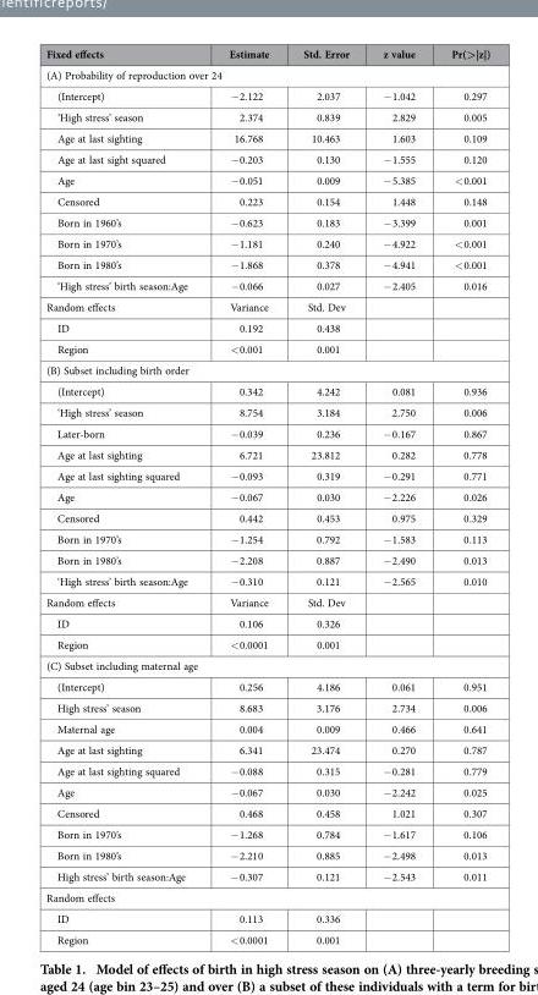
<table><thead><tr><td>Fixed effects</td><td>Estimate</td><td>Std. Error</td><td>z value</td><td>Pr(&gt;|z|)</td></tr></thead><tbody><tr><td colspan="5">(A) Probability of reproduction over 24</td></tr><tr><td>(Intercept)</td><td>− 2.122</td><td>2.037</td><td>− 1.042</td><td>0.297</td></tr><tr><td>‘High stress’ season</td><td>2.374</td><td>0.839</td><td>2.829</td><td>0.005</td></tr><tr><td>Age at last sighting</td><td>16.768</td><td>10.463</td><td>1.603</td><td>0.109</td></tr><tr><td>Age at last sight squared</td><td>− 0.203</td><td>0.130</td><td>− 1.555</td><td>0.120</td></tr><tr><td>Age</td><td>− 0.051</td><td>0.009</td><td>− 5.385</td><td>&lt; 0.001</td></tr><tr><td>Censored</td><td>0.223</td><td>0.154</td><td>1.448</td><td>0.148</td></tr><tr><td>Born in 1960’s</td><td>− 0.623</td><td>0.183</td><td>− 3.399</td><td>0.001</td></tr><tr><td>Born in 1970’s</td><td>− 1.181</td><td>0.240</td><td>− 4.922</td><td>&lt; 0.001</td></tr><tr><td>Born in 1980’s</td><td>− 1.868</td><td>0.378</td><td>− 4.941</td><td>&lt; 0.001</td></tr><tr><td>‘High stress’ birth season:Age</td><td>− 0.066</td><td>0.027</td><td>− 2.405</td><td>0.016</td></tr><tr><td>Random effects</td><td>Variance</td><td>Std. Dev</td><td></td><td></td></tr><tr><td>ID</td><td>0.192</td><td>0.438</td><td></td><td></td></tr><tr><td>Region</td><td>&lt; 0.001</td><td>0.001</td><td></td><td></td></tr><tr><td colspan="5">(B) Subset including birth order</td></tr><tr><td>(Intercept)</td><td>0.342</td><td>4.242</td><td>0.081</td><td>0.936</td></tr><tr><td>‘High stress’ season</td><td>8.754</td><td>3.184</td><td>2.750</td><td>0.006</td></tr><tr><td>Later-born</td><td>− 0.039</td><td>0.236</td><td>− 0.167</td><td>0.867</td></tr><tr><td>Age at last sighting</td><td>6.721</td><td>23.812</td><td>0.282</td><td>0.778</td></tr><tr><td>Age at last sighting squared</td><td>− 0.093</td><td>0.319</td><td>− 0.291</td><td>0.771</td></tr><tr><td>Age</td><td>− 0.067</td><td>0.030</td><td>− 2.226</td><td>0.026</td></tr><tr><td>Censored</td><td>0.442</td><td>0.453</td><td>0.975</td><td>0.329</td></tr><tr><td>Born in 1970’s</td><td>− 1.254</td><td>0.792</td><td>− 1.583</td><td>0.113</td></tr><tr><td>Born in 1980’s</td><td>− 2.208</td><td>0.887</td><td>− 2.490</td><td>0.013</td></tr><tr><td>‘High stress’ birth season:Age</td><td>− 0.310</td><td>0.121</td><td>− 2.565</td><td>0.010</td></tr><tr><td>Random effects</td><td>Variance</td><td>Std. Dev</td><td></td><td></td></tr><tr><td>ID</td><td>0.106</td><td>0.326</td><td></td><td></td></tr><tr><td>Region</td><td>&lt; 0.0001</td><td>0.001</td><td></td><td></td></tr><tr><td colspan="5">(C) Subset including maternal age</td></tr><tr><td>(Intercept)</td><td>0.256</td><td>4.186</td><td>0.061</td><td>0.951</td></tr><tr><td>High stress’ season</td><td>8.683</td><td>3.176</td><td>2.734</td><td>0.006</td></tr><tr><td>Maternal age</td><td>0.004</td><td>0.009</td><td>0.466</td><td>0.641</td></tr><tr><td>Age at last sighting</td><td>6.341</td><td>23.474</td><td>0.270</td><td>0.787</td></tr><tr><td>Age at last sighting squared</td><td>− 0.088</td><td>0.315</td><td>− 0.281</td><td>0.779</td></tr><tr><td>Age</td><td>− 0.067</td><td>0.030</td><td>− 2.242</td><td>0.025</td></tr><tr><td>Censored</td><td>0.468</td><td>0.458</td><td>1.021</td><td>0.307</td></tr><tr><td>Born in 1970’s</td><td>− 1.268</td><td>0.784</td><td>− 1.617</td><td>0.106</td></tr><tr><td>Born in 1980’s</td><td>− 2.210</td><td>0.885</td><td>− 2.498</td><td>0.013</td></tr><tr><td>High stress’ birth season:Age</td><td>− 0.307</td><td>0.121</td><td>− 2.543</td><td>0.011</td></tr><tr><td colspan="5">Random effects</td></tr><tr><td>ID</td><td>0.113</td><td>0.336</td><td></td><td></td></tr><tr><td>Region</td><td>&lt; 0.0001</td><td>0.001</td><td></td><td></td></tr></tbody></table>